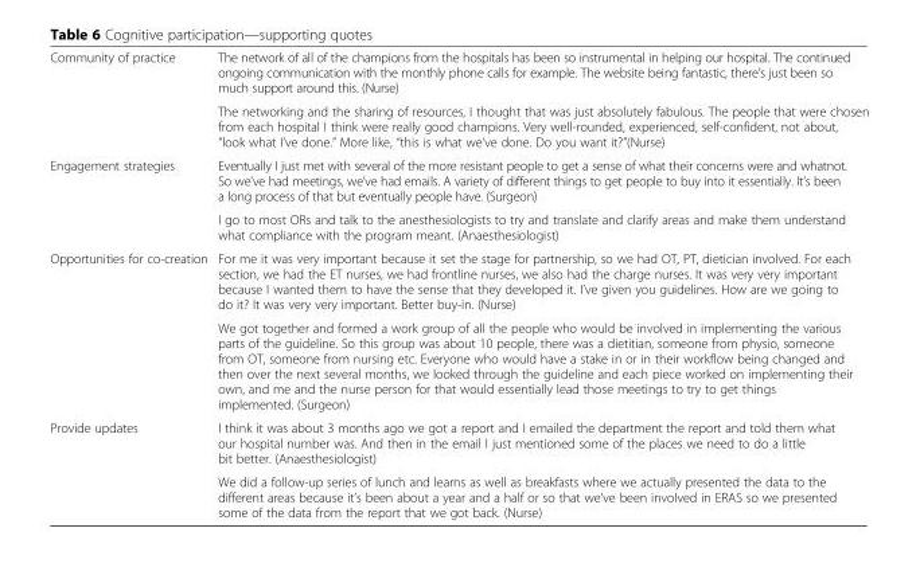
<table><tbody><tr><td rowspan="2">Community of practice</td><td>The network of all of the champions from the hospitals has been so instrumental in helping our hospital. The continued ongoing communication with the monthly phone calls for example. The website being fantastic, there’s just been so much support around this. (Nurse)</td></tr><tr><td>The networking and the sharing of resources, I thought that was just absolutely fabulous. The people that were chosen from each hospital I think were really good champions. Very well-rounded, experienced, self-confident, not about, “look what I’ve done.” More like, “this is what we’ve done. Do you want it?”(Nurse)</td></tr><tr><td rowspan="2">Engagement strategies</td><td>Eventually I just met with several of the more resistant people to get a sense of what their concerns were and whatnot. So we’ve had meetings, we’ve had emails. A variety of different things to get people to buy into it essentially. It’s been a long process of that but eventually people have. (Surgeon)</td></tr><tr><td>I go to most ORs and talk to the anesthesiologists to try and translate and clarify areas and make them understand what compliance with the program meant. (Anaesthesiologist)</td></tr><tr><td rowspan="2">Opportunities for co-creation</td><td>For me it was very important because it set the stage for partnership, so we had OT, PT, dietician involved. For each section, we had the ET nurses, we had frontline nurses, we also had the charge nurses. It was very very important because I wanted them to have the sense that they developed it. I’ve given you guidelines. How are we going to do it? It was very very important. Better buy-in. (Nurse)</td></tr><tr><td>We got together and formed a work group of all the people who would be involved in implementing the various parts of the guideline. So this group was about 10 people, there was a dietitian, someone from physio, someone from OT, someone from nursing etc. Everyone who would have a stake in or in their workflow being changed and then over the next several months, we looked through the guideline and each piece worked on implementing their own, and me and the nurse person for that would essentially lead those meetings to try to get things implemented. (Surgeon)</td></tr><tr><td rowspan="2">Provide updates</td><td>I think it was about 3 months ago we got a report and I emailed the department the report and told them what our hospital number was. And then in the email I just mentioned some of the places we need to do a little bit better. (Anaesthesiologist)</td></tr><tr><td>We did a follow-up series of lunch and learns as well as breakfasts where we actually presented the data to the different areas because it’s been about a year and a half or so that we’ve been involved in ERAS so we presented some of the data from the report that we got back. (Nurse)</td></tr></tbody></table>